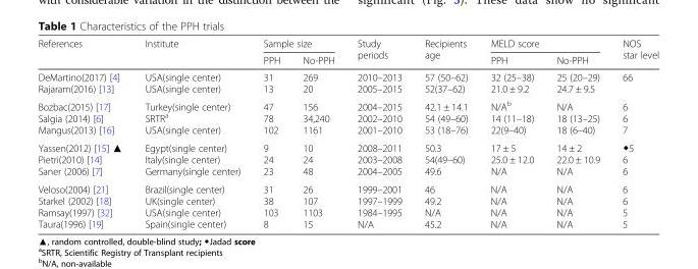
<table><thead><tr><td rowspan="2">References</td><td rowspan="2">Institute</td><td colspan="2">Sample size</td><td rowspan="2">Study periods</td><td rowspan="2">Recipients age</td><td colspan="2">MELD score</td><td rowspan="2">NOS star level</td></tr><tr><td>PPH</td><td>No-PPH</td><td>PPH</td><td>No-PPH</td></tr></thead><tbody><tr><td>DeMartino(2017) [4] Rajaram(2016) [13]</td><td>USA(single center) USA(single center)</td><td>31 13</td><td>269 20</td><td>2010–2013 2005–2015</td><td>57 (50–62) 52(37–62)</td><td>32 (25–38) 21.0 ± 9.2</td><td>25 (20–29) 24.7 ± 9.5</td><td>66</td></tr><tr><td>Bozbac(2015) [17] Salgia (2014) [6] Mangus(2013) [16]</td><td>Turkey(single center) SRTR<sup>a</sup> USA(single center)</td><td>47 78 102</td><td>156 34,240 1161</td><td>2004–2015 2002–2010 2001–2010</td><td>42.1 ± 14.1 54 (49–60) 53 (18–76)</td><td>N/A<sup>b</sup> 14 (11–18) 22(9–40)</td><td>N/A 18 (13–25) 18 (6–40)</td><td>6 6 7</td></tr><tr><td>Yassen(2012) [15] ▲ Pietri(2010) [14] Saner (2006) [7]</td><td>Egypt(single center) Italy(single center) Germany(single center)</td><td>9 24 23</td><td>10 24 48</td><td>2008–2011 2003–2008 2004–2005</td><td>50.3 54(49–60) 49.6</td><td>17 ± 5 25.0 ± 12.0 N/A</td><td>14 ± 2 22.0 ± 10.9 N/A</td><td>◆5 6 6</td></tr><tr><td>Veloso(2004) [21] Starkel (2002) [18] Ramsay(1997) [32] Taura(1996) [19]</td><td>Brazil(single center) UK(single center) USA(single center) Spain(single center)</td><td>31 38 103 8</td><td>26 107 1103 15</td><td>1999–2001 1997–1999 1984–1995 N/A</td><td>46 49.2 N/A 45.2</td><td>N/A N/A N/A N/A</td><td>N/A N/A N/A N/A</td><td>6 6 5 5</td></tr></tbody></table>